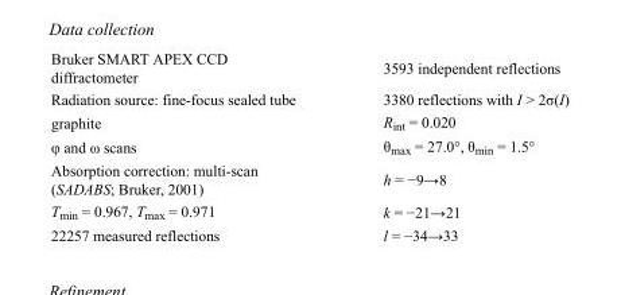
<table><tbody><tr><td>Bruker SMART APEX CCD diffractometer</td><td>3593 independent reflections</td></tr><tr><td>Radiation source: fine-focus sealed tube</td><td>3380 reflections with I &gt; 2σ(I)</td></tr><tr><td>graphite</td><td>R<sub>int</sub> = 0.020</td></tr><tr><td>φ and ω scans</td><td>θ<sub>max</sub> = 27.0°, θ<sub>min</sub> = 1.5°</td></tr><tr><td>Absorption correction: multi-scan (SADABS; Bruker, 2001)</td><td>h = −9→8</td></tr><tr><td>T<sub>min</sub> = 0.967, T<sub>max</sub> = 0.971</td><td>k = −21→21</td></tr><tr><td>22257 measured reflections</td><td>l = −34→33</td></tr></tbody></table>